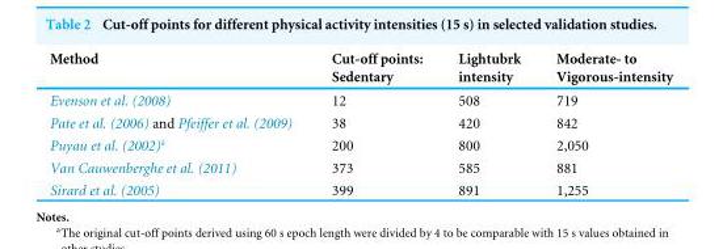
<table><thead><tr><td>Method</td><td>Cut-off points: Sedentary</td><td>Lightubrk intensity</td><td>Moderate- to Vigorous-intensity</td></tr></thead><tbody><tr><td>Evenson et al. (2008)</td><td>12</td><td>508</td><td>719</td></tr><tr><td>Pate et al. (2006) and Pfeiffer et al. (2009)</td><td>38</td><td>420</td><td>842</td></tr><tr><td>Puyau et al. (2002)<sup>a</sup></td><td>200</td><td>800</td><td>2,050</td></tr><tr><td>Van Cauwenberghe et al. (2011)</td><td>373</td><td>585</td><td>881</td></tr><tr><td>Sirard et al. (2005)</td><td>399</td><td>891</td><td>1,255</td></tr></tbody></table>